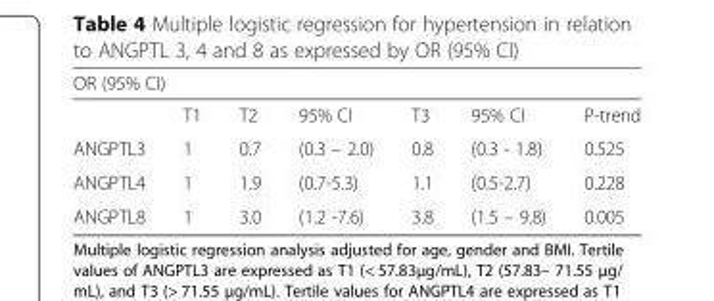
<table><thead><tr><td colspan="7">OR (95% CI)</td></tr><tr><td></td><td>T1</td><td>T2</td><td>95% CI</td><td>T3</td><td>95% CI</td><td>P-trend</td></tr></thead><tbody><tr><td>ANGPTL3</td><td>1</td><td>0.7</td><td>(0.3 – 2.0)</td><td>0.8</td><td>(0.3 - 1.8)</td><td>0.525</td></tr><tr><td>ANGPTL4</td><td>1</td><td>1.9</td><td>(0.7-5.3)</td><td>1.1</td><td>(0.5-2.7)</td><td>0.228</td></tr><tr><td>ANGPTL8</td><td>1</td><td>3.0</td><td>(1.2 -7.6)</td><td>3.8</td><td>(1.5 – 9.8)</td><td>0.005</td></tr></tbody></table>